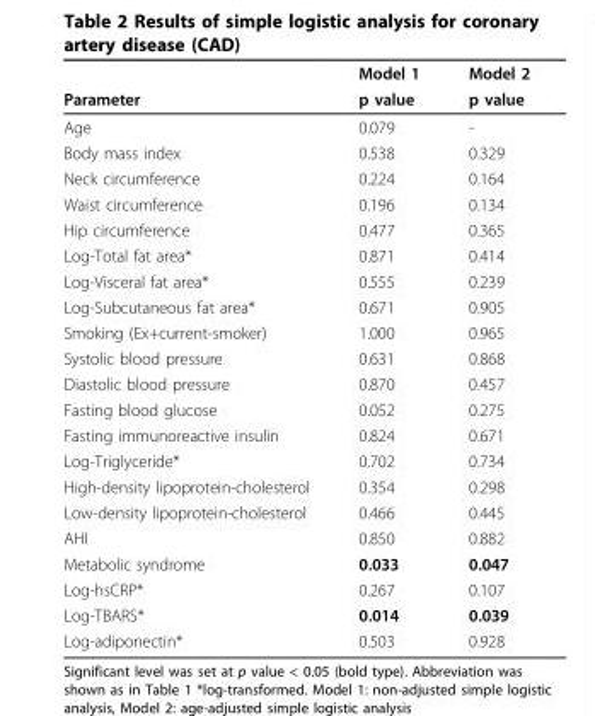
<table><thead><tr><td rowspan="2">Parameter</td><td rowspan="2">Model 1 p value</td><td rowspan="2">Model 2 p value</td></tr><tr></tr></thead><tbody><tr><td>Age</td><td>0.079</td><td>-</td></tr><tr><td>Body mass index</td><td>0.538</td><td>0.329</td></tr><tr><td>Neck circumference</td><td>0.224</td><td>0.164</td></tr><tr><td>Waist circumference</td><td>0.196</td><td>0.134</td></tr><tr><td>Hip circumference</td><td>0.477</td><td>0.365</td></tr><tr><td>Log-Total fat area*</td><td>0.871</td><td>0.414</td></tr><tr><td>Log-Visceral fat area*</td><td>0.555</td><td>0.239</td></tr><tr><td>Log-Subcutaneous fat area*</td><td>0.671</td><td>0.905</td></tr><tr><td>Smoking (Ex+current-smoker)</td><td>1.000</td><td>0.965</td></tr><tr><td>Systolic blood pressure</td><td>0.631</td><td>0.868</td></tr><tr><td>Diastolic blood pressure</td><td>0.870</td><td>0.457</td></tr><tr><td>Fasting blood glucose</td><td>0.052</td><td>0.275</td></tr><tr><td>Fasting immunoreactive insulin</td><td>0.824</td><td>0.671</td></tr><tr><td>Log-Triglyceride*</td><td>0.702</td><td>0.734</td></tr><tr><td>High-density lipoprotein-cholesterol</td><td>0.354</td><td>0.298</td></tr><tr><td>Low-density lipoprotein-cholesterol</td><td>0.466</td><td>0.445</td></tr><tr><td>AHI</td><td>0.850</td><td>0.882</td></tr><tr><td>Metabolic syndrome</td><td>0.033</td><td>0.047</td></tr><tr><td>Log-hsCRP*</td><td>0.267</td><td>0.107</td></tr><tr><td>Log-TBARS*</td><td>0.014</td><td>0.039</td></tr><tr><td>Log-adiponectin*</td><td>0.503</td><td>0.928</td></tr></tbody></table>